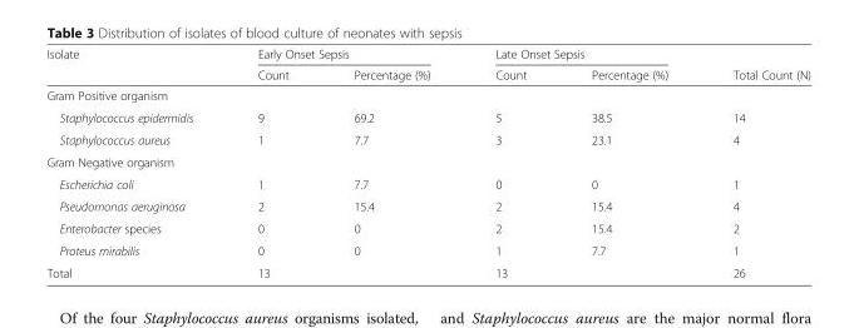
<table><thead><tr><td rowspan="2">Isolate</td><td colspan="2">Early Onset Sepsis</td><td colspan="2">Late Onset Sepsis</td><td rowspan="2">Total Count (N)</td></tr><tr><td>Count</td><td>Percentage (%)</td><td>Count</td><td>Percentage (%)</td></tr></thead><tbody><tr><td colspan="6">Gram Positive organism</td></tr><tr><td>Staphylococcus epidermidis</td><td>9</td><td>69.2</td><td>5</td><td>38.5</td><td>14</td></tr><tr><td>Staphylococcus aureus</td><td>1</td><td>7.7</td><td>3</td><td>23.1</td><td>4</td></tr><tr><td colspan="6">Gram Negative organism</td></tr><tr><td>Escherichia coli</td><td>1</td><td>7.7</td><td>0</td><td>0</td><td>1</td></tr><tr><td>Pseudomonas aeruginosa</td><td>2</td><td>15.4</td><td>2</td><td>15.4</td><td>4</td></tr><tr><td>Enterobacter species</td><td>0</td><td>0</td><td>2</td><td>15.4</td><td>2</td></tr><tr><td>Proteus mirabilis</td><td>0</td><td>0</td><td>1</td><td>7.7</td><td>1</td></tr><tr><td>Total</td><td>13</td><td></td><td>13</td><td></td><td>26</td></tr></tbody></table>